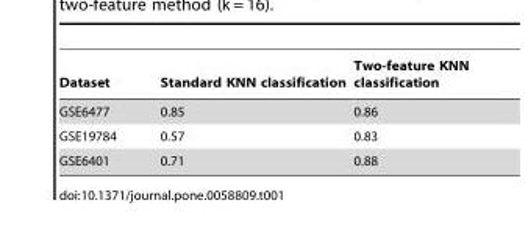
<table><thead><tr><td>Dataset</td><td>Standard KNN classification</td><td>Two-feature KNN classification</td></tr></thead><tbody><tr><td>GSE6477</td><td>0.85</td><td>0.86</td></tr><tr><td>GSE19784</td><td>0.57</td><td>0.83</td></tr><tr><td>GSE6401</td><td>0.71</td><td>0.88</td></tr></tbody></table>